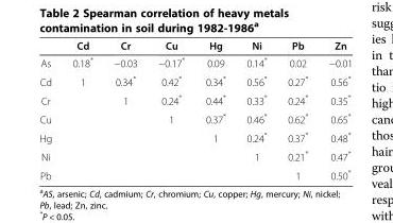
<table><thead><tr><td></td><td>Cd</td><td>Cr</td><td>Cu</td><td>Hg</td><td>Ni</td><td>Pb</td><td>Zn</td></tr></thead><tbody><tr><td>As</td><td>0.18*</td><td>−0.03</td><td>−0.17*</td><td>0.09</td><td>0.14*</td><td>0.02</td><td>−0.01</td></tr><tr><td>Cd</td><td>1</td><td>0.34*</td><td>0.42*</td><td>0.34*</td><td>0.56*</td><td>0.27*</td><td>0.56*</td></tr><tr><td>Cr</td><td></td><td>1</td><td>0.24*</td><td>0.44*</td><td>0.33*</td><td>0.24*</td><td>0.35*</td></tr><tr><td>Cu</td><td></td><td></td><td>1</td><td>0.37*</td><td>0.46*</td><td>0.62*</td><td>0.65*</td></tr><tr><td>Hg</td><td></td><td></td><td></td><td>1</td><td>0.24*</td><td>0.37*</td><td>0.48*</td></tr><tr><td>Ni</td><td></td><td></td><td></td><td></td><td>1</td><td>0.21*</td><td>0.47*</td></tr><tr><td>Pb</td><td></td><td></td><td></td><td></td><td></td><td>1</td><td>0.50*</td></tr></tbody></table>